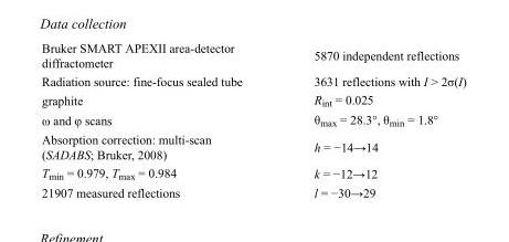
<table><tbody><tr><td>Bruker SMART APEXII area-detector diffractometer</td><td>5870 independent reflections</td></tr><tr><td>Radiation source: fine-focus sealed tube</td><td>3631 reflections with I &gt; 2σ(I)</td></tr><tr><td>graphite</td><td>R<sub>int</sub> = 0.025</td></tr><tr><td>ω and φ scans</td><td>θ<sub>max</sub> = 28.3°, θ<sub>min</sub> = 1.8°</td></tr><tr><td>Absorption correction: multi-scan (SADABS; Bruker, 2008)</td><td>h = −14→14</td></tr><tr><td>T<sub>min</sub> = 0.979, T<sub>max</sub> = 0.984</td><td>k = −12→12</td></tr><tr><td>21907 measured reflections</td><td>l = −30→29</td></tr></tbody></table>